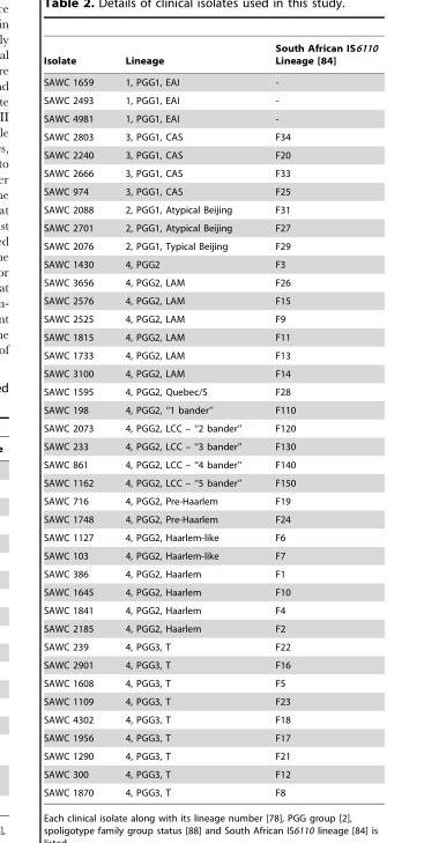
<table><thead><tr><td>Isolate</td><td>Lineage</td><td>South African IS6110 Lineage [84]</td></tr></thead><tbody><tr><td>SAWC 1659</td><td>1, PGG1, EAI</td><td>-</td></tr><tr><td>SAWC 2493</td><td>1, PGG1, EAI</td><td>-</td></tr><tr><td>SAWC 4981</td><td>1, PGG1, EAI</td><td>-</td></tr><tr><td>SAWC 2803</td><td>3, PGG1, CAS</td><td>F34</td></tr><tr><td>SAWC 2240</td><td>3, PGG1, CAS</td><td>F20</td></tr><tr><td>SAWC 2666</td><td>3, PGG1, CAS</td><td>F33</td></tr><tr><td>SAWC 974</td><td>3, PGG1, CAS</td><td>F25</td></tr><tr><td>SAWC 2088</td><td>2, PGG1, Atypical Beijing</td><td>F31</td></tr><tr><td>SAWC 2701</td><td>2, PGG1, Atypical Beijing</td><td>F27</td></tr><tr><td>SAWC 2076</td><td>2, PGG1, Typical Beijing</td><td>F29</td></tr><tr><td>SAWC 1430</td><td>4, PGG2</td><td>F3</td></tr><tr><td>SAWC 3656</td><td>4, PGG2, LAM</td><td>F26</td></tr><tr><td>SAWC 2576</td><td>4, PGG2, LAM</td><td>F15</td></tr><tr><td>SAWC 2525</td><td>4, PGG2, LAM</td><td>F9</td></tr><tr><td>SAWC 1815</td><td>4, PGG2, LAM</td><td>F11</td></tr><tr><td>SAWC 1733</td><td>4, PGG2, LAM</td><td>F13</td></tr><tr><td>SAWC 3100</td><td>4, PGG2, LAM</td><td>F14</td></tr><tr><td>SAWC 1595</td><td>4, PGG2, Quebec/S</td><td>F28</td></tr><tr><td>SAWC 198</td><td>4, PGG2, ‘‘1 bander’’</td><td>F110</td></tr><tr><td>SAWC 2073</td><td>4, PGG2, LCC – ‘‘2 bander’’</td><td>F120</td></tr><tr><td>SAWC 233</td><td>4, PGG2, LCC – ‘‘3 bander’’</td><td>F130</td></tr><tr><td>SAWC 861</td><td>4, PGG2, LCC – ‘‘4 bander’’</td><td>F140</td></tr><tr><td>SAWC 1162</td><td>4, PGG2, LCC – ‘‘5 bander’’</td><td>F150</td></tr><tr><td>SAWC 716</td><td>4, PGG2, Pre-Haarlem</td><td>F19</td></tr><tr><td>SAWC 1748</td><td>4, PGG2, Pre-Haarlem</td><td>F24</td></tr><tr><td>SAWC 1127</td><td>4, PGG2, Haarlem-like</td><td>F6</td></tr><tr><td>SAWC 103</td><td>4, PGG2, Haarlem-like</td><td>F7</td></tr><tr><td>SAWC 386</td><td>4, PGG2, Haarlem</td><td>F1</td></tr><tr><td>SAWC 1645</td><td>4, PGG2, Haarlem</td><td>F10</td></tr><tr><td>SAWC 1841</td><td>4, PGG2, Haarlem</td><td>F4</td></tr><tr><td>SAWC 2185</td><td>4, PGG2, Haarlem</td><td>F2</td></tr><tr><td>SAWC 239</td><td>4, PGG3, T</td><td>F22</td></tr><tr><td>SAWC 2901</td><td>4, PGG3, T</td><td>F16</td></tr><tr><td>SAWC 1608</td><td>4, PGG3, T</td><td>F5</td></tr><tr><td>SAWC 1109</td><td>4, PGG3, T</td><td>F23</td></tr><tr><td>SAWC 4302</td><td>4, PGG3, T</td><td>F18</td></tr><tr><td>SAWC 1956</td><td>4, PGG3, T</td><td>F17</td></tr><tr><td>SAWC 1290</td><td>4, PGG3, T</td><td>F21</td></tr><tr><td>SAWC 300</td><td>4, PGG3, T</td><td>F12</td></tr><tr><td>SAWC 1870</td><td>4, PGG3, T</td><td>F8</td></tr></tbody></table>